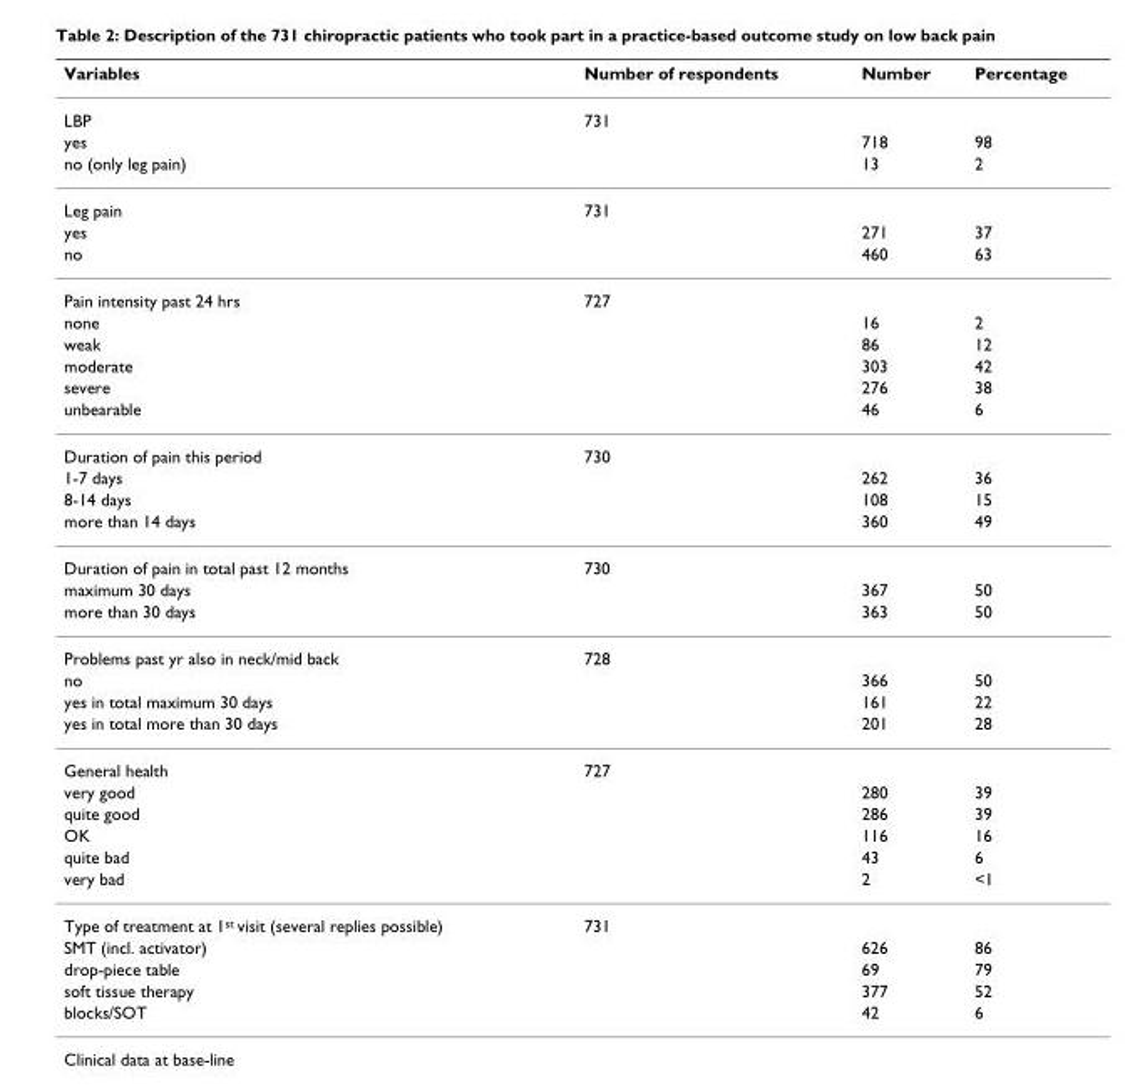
<table><thead><tr><td>Variables</td><td>Number of respondents</td><td>Number</td><td>Percentage</td></tr></thead><tbody><tr><td>LBP</td><td>731</td><td></td><td></td></tr><tr><td>yes</td><td></td><td>718</td><td>98</td></tr><tr><td>no (only leg pain)</td><td></td><td>13</td><td>2</td></tr><tr><td>Leg pain</td><td>731</td><td></td><td></td></tr><tr><td>yes</td><td></td><td>271</td><td>37</td></tr><tr><td>no</td><td></td><td>460</td><td>63</td></tr><tr><td>Pain intensity past 24 hrs</td><td>727</td><td></td><td></td></tr><tr><td>none</td><td></td><td>16</td><td>2</td></tr><tr><td>weak</td><td></td><td>86</td><td>12</td></tr><tr><td>moderate</td><td></td><td>303</td><td>42</td></tr><tr><td>severe</td><td></td><td>276</td><td>38</td></tr><tr><td>unbearable</td><td></td><td>46</td><td>6</td></tr><tr><td>Duration of pain this period</td><td>730</td><td></td><td></td></tr><tr><td>1-7 days</td><td></td><td>262</td><td>36</td></tr><tr><td>8-14 days</td><td></td><td>108</td><td>15</td></tr><tr><td>more than 14 days</td><td></td><td>360</td><td>49</td></tr><tr><td>Duration of pain in total past 12 months</td><td>730</td><td></td><td></td></tr><tr><td>maximum 30 days</td><td></td><td>367</td><td>50</td></tr><tr><td>more than 30 days</td><td></td><td>363</td><td>50</td></tr><tr><td>Problems past yr also in neck/mid back</td><td>728</td><td></td><td></td></tr><tr><td>no</td><td></td><td>366</td><td>50</td></tr><tr><td>yes in total maximum 30 days</td><td></td><td>161</td><td>22</td></tr><tr><td>yes in total more than 30 days</td><td></td><td>201</td><td>28</td></tr><tr><td>General health</td><td>727</td><td></td><td></td></tr><tr><td>very good</td><td></td><td>280</td><td>39</td></tr><tr><td>quite good</td><td></td><td>286</td><td>39</td></tr><tr><td>OK</td><td></td><td>116</td><td>16</td></tr><tr><td>quite bad</td><td></td><td>43</td><td>6</td></tr><tr><td>very bad</td><td></td><td>2</td><td>&lt;1</td></tr><tr><td>Type of treatment at 1<sup>st</sup> visit (several replies possible)</td><td>731</td><td></td><td></td></tr><tr><td>SMT (incl. activator)</td><td></td><td>626</td><td>86</td></tr><tr><td>drop-piece table</td><td></td><td>69</td><td>79</td></tr><tr><td>soft tissue therapy</td><td></td><td>377</td><td>52</td></tr><tr><td>blocks/SOT</td><td></td><td>42</td><td>6</td></tr></tbody></table>